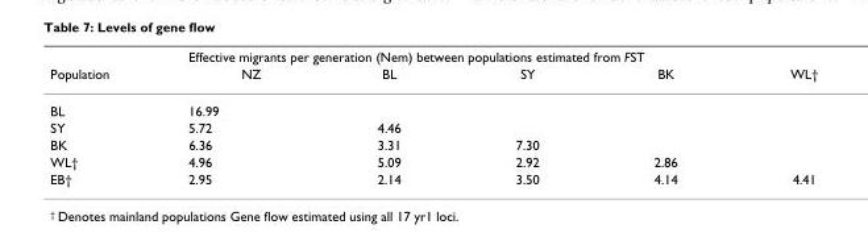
<table><thead><tr><td rowspan="2">Population</td><td colspan="5">Effective migrants per generation (Nem) between populations estimated from FST</td></tr><tr><td>NZ</td><td>BL</td><td>SY</td><td>BK</td><td>WL†</td></tr></thead><tbody><tr><td>BL</td><td>16.99</td><td></td><td></td><td></td><td></td></tr><tr><td>SY</td><td>5.72</td><td>4.46</td><td></td><td></td><td></td></tr><tr><td>BK</td><td>6.36</td><td>3.31</td><td>7.30</td><td></td><td></td></tr><tr><td>WL†</td><td>4.96</td><td>5.09</td><td>2.92</td><td>2.86</td><td></td></tr><tr><td>EB†</td><td>2.95</td><td>2.14</td><td>3.50</td><td>4.14</td><td>4.41</td></tr></tbody></table>